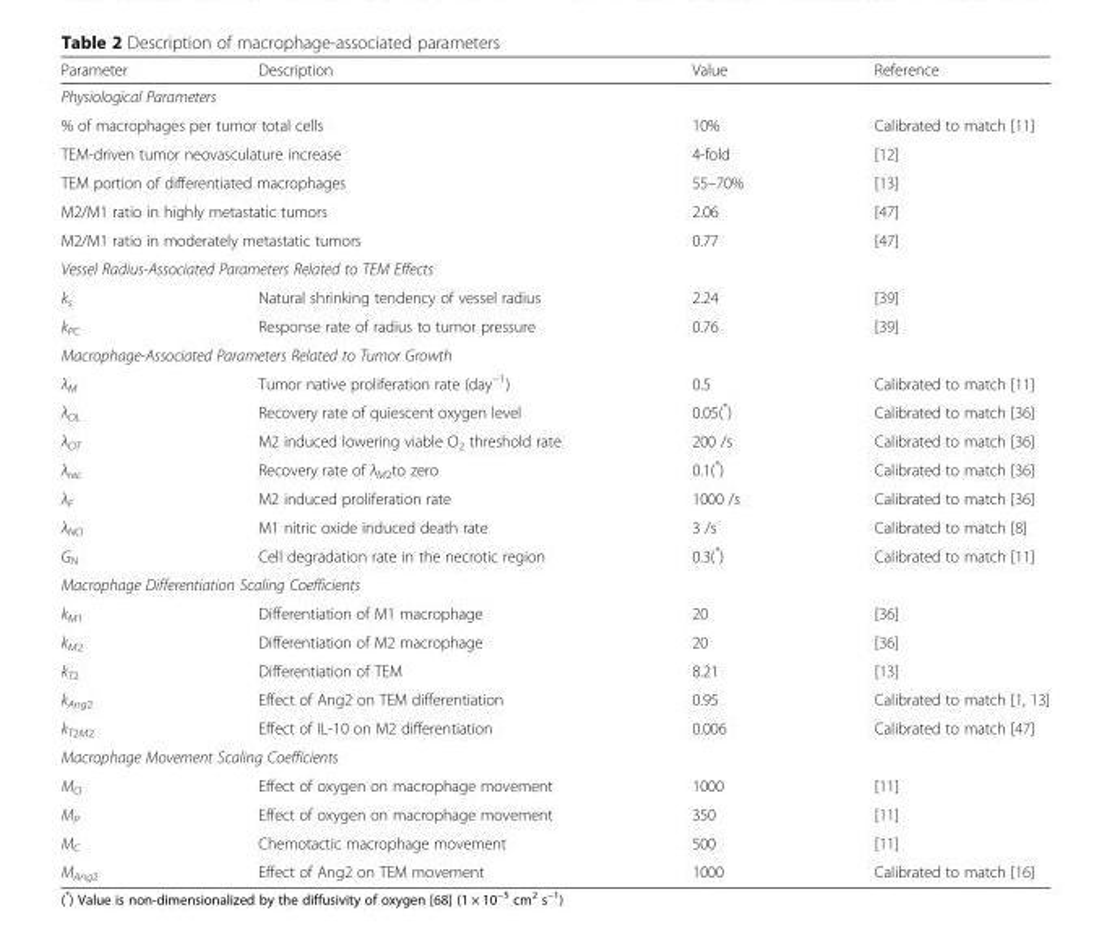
<table><thead><tr><td>Parameter</td><td>Description</td><td>Value</td><td>Reference</td></tr></thead><tbody><tr><td colspan="4">Physiological Parameters</td></tr><tr><td colspan="2">% of macrophages per tumor total cells</td><td>10%</td><td>Calibrated to match [11]</td></tr><tr><td colspan="2">TEM-driven tumor neovasculature increase</td><td>4-fold</td><td>[12]</td></tr><tr><td colspan="2">TEM portion of differentiated macrophages</td><td>55–70%</td><td>[13]</td></tr><tr><td colspan="2">M2/M1 ratio in highly metastatic tumors</td><td>2.06</td><td>[47]</td></tr><tr><td colspan="2">M2/M1 ratio in moderately metastatic tumors</td><td>0.77</td><td>[47]</td></tr><tr><td colspan="4">Vessel Radius-Associated Parameters Related to TEM Effects</td></tr><tr><td>k<sub>s</sub></td><td>Natural shrinking tendency of vessel radius</td><td>2.24</td><td>[39]</td></tr><tr><td>k<sub>PC</sub></td><td>Response rate of radius to tumor pressure</td><td>0.76</td><td>[39]</td></tr><tr><td colspan="4">Macrophage-Associated Parameters Related to Tumor Growth</td></tr><tr><td>λ<sub>M</sub></td><td>Tumor native proliferation rate (day<sup>−1</sup>)</td><td>0.5</td><td>Calibrated to match [11]</td></tr><tr><td>λ<sub>OL</sub></td><td>Recovery rate of quiescent oxygen level</td><td>0.05(*)</td><td>Calibrated to match [36]</td></tr><tr><td>λ<sub>OT</sub></td><td>M2 induced lowering viable O<sub>2</sub> threshold rate</td><td>200 /s</td><td>Calibrated to match [36]</td></tr><tr><td>λ<sub>rec</sub></td><td>Recovery rate of λ<sub>M2</sub>to zero</td><td>0.1(*)</td><td>Calibrated to match [36]</td></tr><tr><td>λ<sub>F</sub></td><td>M2 induced proliferation rate</td><td>1000 /s</td><td>Calibrated to match [36]</td></tr><tr><td>λ<sub>NO</sub></td><td>M1 nitric oxide induced death rate</td><td>3 /s</td><td>Calibrated to match [8]</td></tr><tr><td>G<sub>N</sub></td><td>Cell degradation rate in the necrotic region</td><td>0.3(*)</td><td>Calibrated to match [11]</td></tr><tr><td colspan="4">Macrophage Differentiation Scaling Coefficients</td></tr><tr><td>k<sub>M1</sub></td><td>Differentiation of M1 macrophage</td><td>20</td><td>[36]</td></tr><tr><td>k<sub>M2</sub></td><td>Differentiation of M2 macrophage</td><td>20</td><td>[36]</td></tr><tr><td>k<sub>T2</sub></td><td>Differentiation of TEM</td><td>8.21</td><td>[13]</td></tr><tr><td>k<sub>Ang2</sub></td><td>Effect of Ang2 on TEM differentiation</td><td>0.95</td><td>Calibrated to match [1, 13]</td></tr><tr><td>k<sub>T2M2</sub></td><td>Effect of IL-10 on M2 differentiation</td><td>0.006</td><td>Calibrated to match [47]</td></tr><tr><td colspan="4">Macrophage Movement Scaling Coefficients</td></tr><tr><td>M<sub>O</sub></td><td>Effect of oxygen on macrophage movement</td><td>1000</td><td>[11]</td></tr><tr><td>M<sub>P</sub></td><td>Effect of oxygen on macrophage movement</td><td>350</td><td>[11]</td></tr><tr><td>M<sub>C</sub></td><td>Chemotactic macrophage movement</td><td>500</td><td>[11]</td></tr><tr><td>M<sub>Ang2</sub></td><td>Effect of Ang2 on TEM movement</td><td>1000</td><td>Calibrated to match [16]</td></tr></tbody></table>